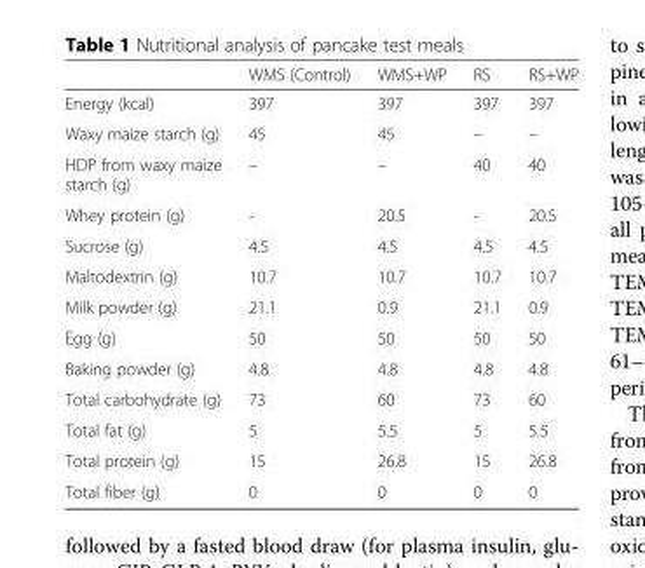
<table><thead><tr><td></td><td>WMS (Control)</td><td>WMS+WP</td><td>RS</td><td>RS+WP</td></tr></thead><tbody><tr><td>Energy (kcal)</td><td>397</td><td>397</td><td>397</td><td>397</td></tr><tr><td>Waxy maize starch (g)</td><td>45</td><td>45</td><td>–</td><td>–</td></tr><tr><td>HDP from waxy maize starch (g)</td><td>–</td><td>–</td><td>40</td><td>40</td></tr><tr><td>Whey protein (g)</td><td>-</td><td>20.5</td><td>-</td><td>20.5</td></tr><tr><td>Sucrose (g)</td><td>4.5</td><td>4.5</td><td>4.5</td><td>4.5</td></tr><tr><td>Maltodextrin (g)</td><td>10.7</td><td>10.7</td><td>10.7</td><td>10.7</td></tr><tr><td>Milk powder (g)</td><td>21.1</td><td>0.9</td><td>21.1</td><td>0.9</td></tr><tr><td>Egg (g)</td><td>50</td><td>50</td><td>50</td><td>50</td></tr><tr><td>Baking powder (g)</td><td>4.8</td><td>4.8</td><td>4.8</td><td>4.8</td></tr><tr><td>Total carbohydrate (g)</td><td>73</td><td>60</td><td>73</td><td>60</td></tr><tr><td>Total fat (g)</td><td>5</td><td>5.5</td><td>5</td><td>5.5</td></tr><tr><td>Total protein (g)</td><td>15</td><td>26.8</td><td>15</td><td>26.8</td></tr><tr><td>Total fiber (g)</td><td>0</td><td>0</td><td>0</td><td>0</td></tr></tbody></table>